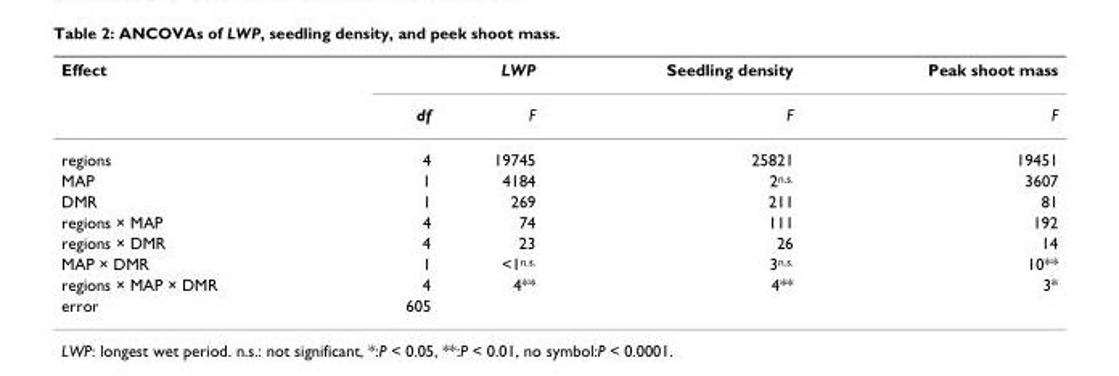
<table><thead><tr><td rowspan="2">Effect</td><td rowspan="2">df</td><td rowspan="2">LWP F</td><td rowspan="2">Seedling density F</td><td rowspan="2">Peak shoot mass F</td></tr><tr></tr></thead><tbody><tr><td>regions</td><td>4</td><td>19745</td><td>25821</td><td>19451</td></tr><tr><td>MAP</td><td>1</td><td>4184</td><td>2<sup>n.s.</sup></td><td>3607</td></tr><tr><td>DMR</td><td>1</td><td>269</td><td>211</td><td>81</td></tr><tr><td>regions × MAP</td><td>4</td><td>74</td><td>111</td><td>192</td></tr><tr><td>regions × DMR</td><td>4</td><td>23</td><td>26</td><td>14</td></tr><tr><td>MAP × DMR</td><td>1</td><td>&lt;1<sup>n.s.</sup></td><td>3<sup>n.s.</sup></td><td>10**</td></tr><tr><td>regions × MAP × DMR</td><td>4</td><td>4**</td><td>4**</td><td>3*</td></tr><tr><td>error</td><td>605</td><td></td><td></td><td></td></tr></tbody></table>